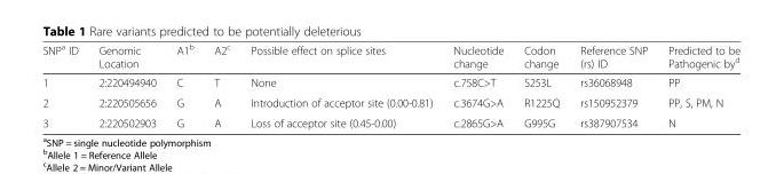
<table><thead><tr><td>SNP<sup>a</sup> ID</td><td>Genomic Location</td><td>A1<sup>b</sup></td><td>A2<sup>c</sup></td><td>Possible effect on splice sites</td><td>Nucleotide change</td><td>Codon change</td><td>Reference SNP (rs) ID</td><td>Predicted to be Pathogenic by<sup>d</sup></td></tr></thead><tbody><tr><td>1</td><td>2:220494940</td><td>C</td><td>T</td><td>None</td><td>c.758C&gt;T</td><td>S253L</td><td>rs36068948</td><td>PP</td></tr><tr><td>2</td><td>2:220505656</td><td>G</td><td>A</td><td>Introduction of acceptor site (0.00-0.81)</td><td>c.3674G&gt;A</td><td>R1225Q</td><td>rs150952379</td><td>PP, S, PM, N</td></tr><tr><td>3</td><td>2:220502903</td><td>G</td><td>A</td><td>Loss of acceptor site (0.45-0.00)</td><td>c.2865G&gt;A</td><td>G995G</td><td>rs387907534</td><td>N</td></tr></tbody></table>